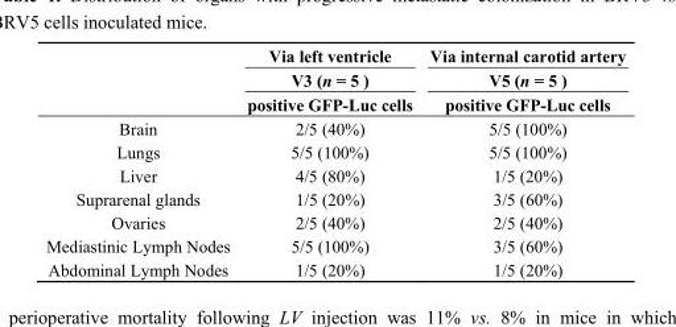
<table><thead><tr><td rowspan="3"></td><td rowspan="3">Via left ventricle V3 (n = 5 ) positive GFP-Luc cells</td><td rowspan="3">Via internal carotid artery V5 (n = 5 ) positive GFP-Luc cells</td></tr><tr></tr><tr></tr></thead><tbody><tr><td>Brain</td><td>2/5 (40%)</td><td>5/5 (100%)</td></tr><tr><td>Lungs</td><td>5/5 (100%)</td><td>5/5 (100%)</td></tr><tr><td>Liver</td><td>4/5 (80%)</td><td>1/5 (20%)</td></tr><tr><td>Suprarenal glands</td><td>1/5 (20%)</td><td>3/5 (60%)</td></tr><tr><td>Ovaries</td><td>2/5 (40%)</td><td>2/5 (40%)</td></tr><tr><td>Mediastinic Lymph Nodes</td><td>5/5 (100%)</td><td>3/5 (60%)</td></tr><tr><td>Abdominal Lymph Nodes</td><td>1/5 (20%)</td><td>1/5 (20%)</td></tr></tbody></table>